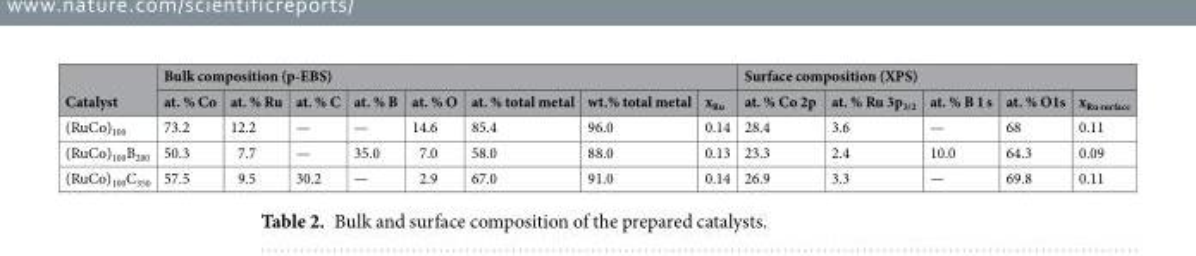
<table><thead><tr><td rowspan="2">Catalyst</td><td colspan="8">Bulk composition (p-EBS)</td><td colspan="5">Surface composition (XPS)</td></tr><tr><td>at. % Co</td><td>at. % Ru</td><td>at. % C</td><td>at. % B</td><td>at. % O</td><td>at. % total metal</td><td>wt.% total metal</td><td>x<sub>Ru</sub></td><td>at. % Co 2p</td><td>at. % Ru 3p<sub>3/2</sub></td><td>at. % B 1 s</td><td>at. % O1s</td><td>x<sub>Ru surface</sub></td></tr></thead><tbody><tr><td>(RuCo)<sub>100</sub></td><td>73.2</td><td>12.2</td><td>—</td><td>—</td><td>14.6</td><td>85.4</td><td>96.0</td><td>0.14</td><td>28.4</td><td>3.6</td><td>—</td><td>68</td><td>0.11</td></tr><tr><td>(RuCo)<sub>100</sub>B<sub>200</sub></td><td>50.3</td><td>7.7</td><td>—</td><td>35.0</td><td>7.0</td><td>58.0</td><td>88.0</td><td>0.13</td><td>23.3</td><td>2.4</td><td>10.0</td><td>64.3</td><td>0.09</td></tr><tr><td>(RuCo)<sub>100</sub>C<sub>350</sub></td><td>57.5</td><td>9.5</td><td>30.2</td><td>—</td><td>2.9</td><td>67.0</td><td>91.0</td><td>0.14</td><td>26.9</td><td>3.3</td><td>—</td><td>69.8</td><td>0.11</td></tr></tbody></table>